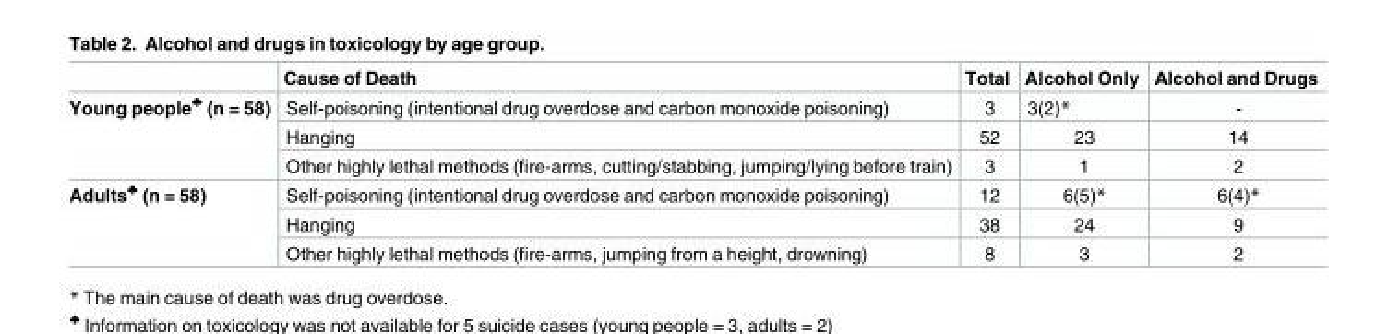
<table><thead><tr><td></td><td>Cause of Death</td><td>Total</td><td>Alcohol Only</td><td>Alcohol and Drugs</td></tr></thead><tbody><tr><td rowspan="3">Young people<sup>♣</sup> (n = 58)</td><td>Self-poisoning (intentional drug overdose and carbon monoxide poisoning)</td><td>3</td><td>3(2)*</td><td>-</td></tr><tr><td>Hanging</td><td>52</td><td>23</td><td>14</td></tr><tr><td>Other highly lethal methods (fire-arms, cutting/stabbing, jumping/lying before train)</td><td>3</td><td>1</td><td>2</td></tr><tr><td rowspan="3">Adults<sup>♣</sup> (n = 58)</td><td>Self-poisoning (intentional drug overdose and carbon monoxide poisoning)</td><td>12</td><td>6(5)*</td><td>6(4)*</td></tr><tr><td>Hanging</td><td>38</td><td>24</td><td>9</td></tr><tr><td>Other highly lethal methods (fire-arms, jumping from a height, drowning)</td><td>8</td><td>3</td><td>2</td></tr></tbody></table>